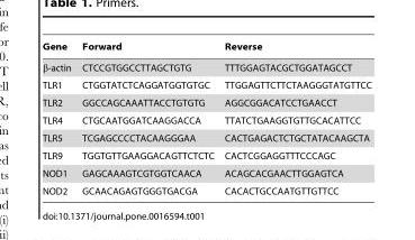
<table><thead><tr><td>Gene</td><td>Forward</td><td>Reverse</td></tr></thead><tbody><tr><td>β-actin</td><td>CTCCGTGGCCTTAGCTGTG</td><td>TTTGGAGTACGCTGGATAGCCT</td></tr><tr><td>TLR1</td><td>CTGGTATCTCAGGATGGTGTGC</td><td>TTGGAGTTCTTCTAAGGGTATGTTCC</td></tr><tr><td>TLR2</td><td>GGCCAGCAAATTACCTGTGTG</td><td>AGGCGGACATCCTGAACCT</td></tr><tr><td>TLR4</td><td>CTGCAATGGATCAAGGACCA</td><td>TTATCTGAAGGTGTTGCACATTCC</td></tr><tr><td>TLR5</td><td>TCGAGCCCCTACAAGGGAA</td><td>CACTGAGACTCTGCTATACAAGCTA</td></tr><tr><td>TLR9</td><td>TGGTGTTGAAGGACAGTTCTCTC</td><td>CACTCGGAGGTTTCCCAGC</td></tr><tr><td>NOD1</td><td>GAGCAAAGTCGTGGTCAACA</td><td>ACAGCACGAACTTGGAGTCA</td></tr><tr><td>NOD2</td><td>GCAACAGAGTGGGTGACGA</td><td>CACACTGCCAATGTTGTTCC</td></tr></tbody></table>